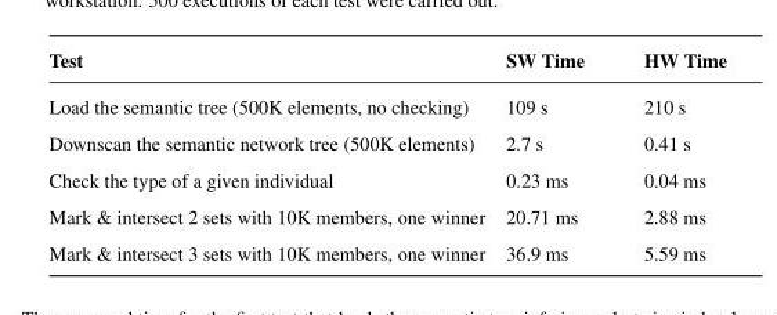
<table><thead><tr><td>Test</td><td>SW Time</td><td>HW Time</td></tr></thead><tbody><tr><td>Load the semantic tree (500K elements, no checking)</td><td>109 s</td><td>210 s</td></tr><tr><td>Downscan the semantic network tree (500K elements)</td><td>2.7 s</td><td>0.41 s</td></tr><tr><td>Check the type of a given individual</td><td>0.23 ms</td><td>0.04 ms</td></tr><tr><td>Mark &amp; intersect 2 sets with 10K members, one winner</td><td>20.71 ms</td><td>2.88 ms</td></tr><tr><td>Mark &amp; intersect 3 sets with 10K members, one winner</td><td>36.9 ms</td><td>5.59 ms</td></tr></tbody></table>